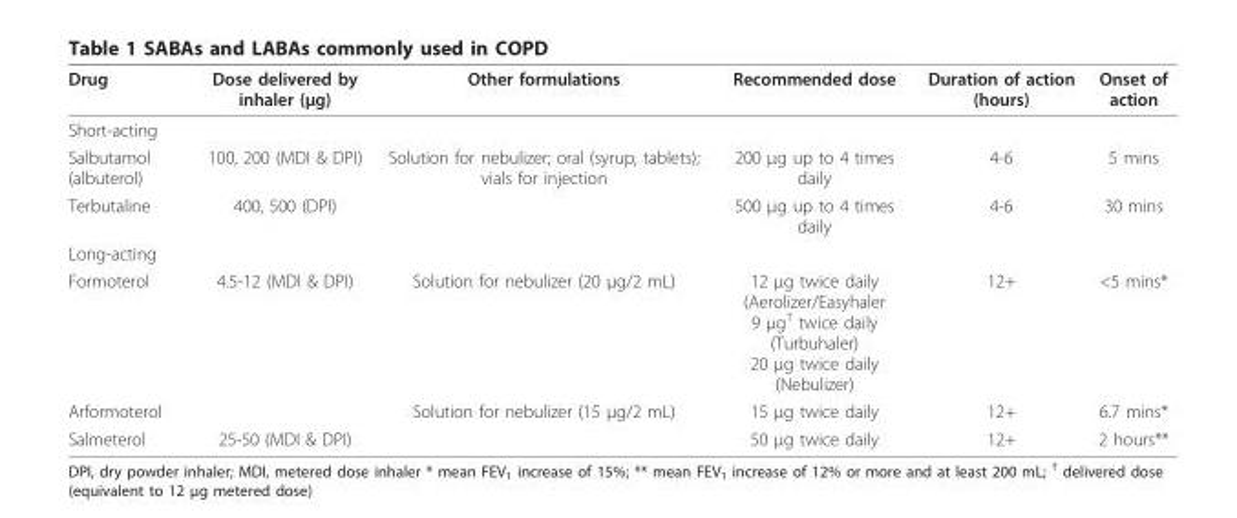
<table><thead><tr><td>Drug</td><td>Dose delivered by inhaler (μg)</td><td>Other formulations</td><td>Recommended dose</td><td>Duration of action (hours)</td><td>Onset of action</td></tr></thead><tbody><tr><td colspan="6">Short-acting</td></tr><tr><td>Salbutamol (albuterol)</td><td>100, 200 (MDI &amp; DPI)</td><td>Solution for nebulizer; oral (syrup, tablets); vials for injection</td><td>200 μg up to 4 times daily</td><td>4-6</td><td>5 mins</td></tr><tr><td>Terbutaline</td><td>400, 500 (DPI)</td><td></td><td>500 μg up to 4 times daily</td><td>4-6</td><td>30 mins</td></tr><tr><td colspan="6">Long-acting</td></tr><tr><td>Formoterol</td><td>4.5-12 (MDI &amp; DPI)</td><td>Solution for nebulizer (20 μg/2 mL)</td><td>12 μg twice daily (Aerolizer/Easyhaler 9 μg<sup>†</sup> twice daily (Turbuhaler) 20 μg twice daily (Nebulizer)</td><td>12+</td><td>&lt;5 mins*</td></tr><tr><td>Arformoterol</td><td></td><td>Solution for nebulizer (15 μg/2 mL)</td><td>15 μg twice daily</td><td>12+</td><td>6.7 mins*</td></tr><tr><td>Salmeterol</td><td>25-50 (MDI &amp; DPI)</td><td></td><td>50 μg twice daily</td><td>12+</td><td>2 hours**</td></tr></tbody></table>